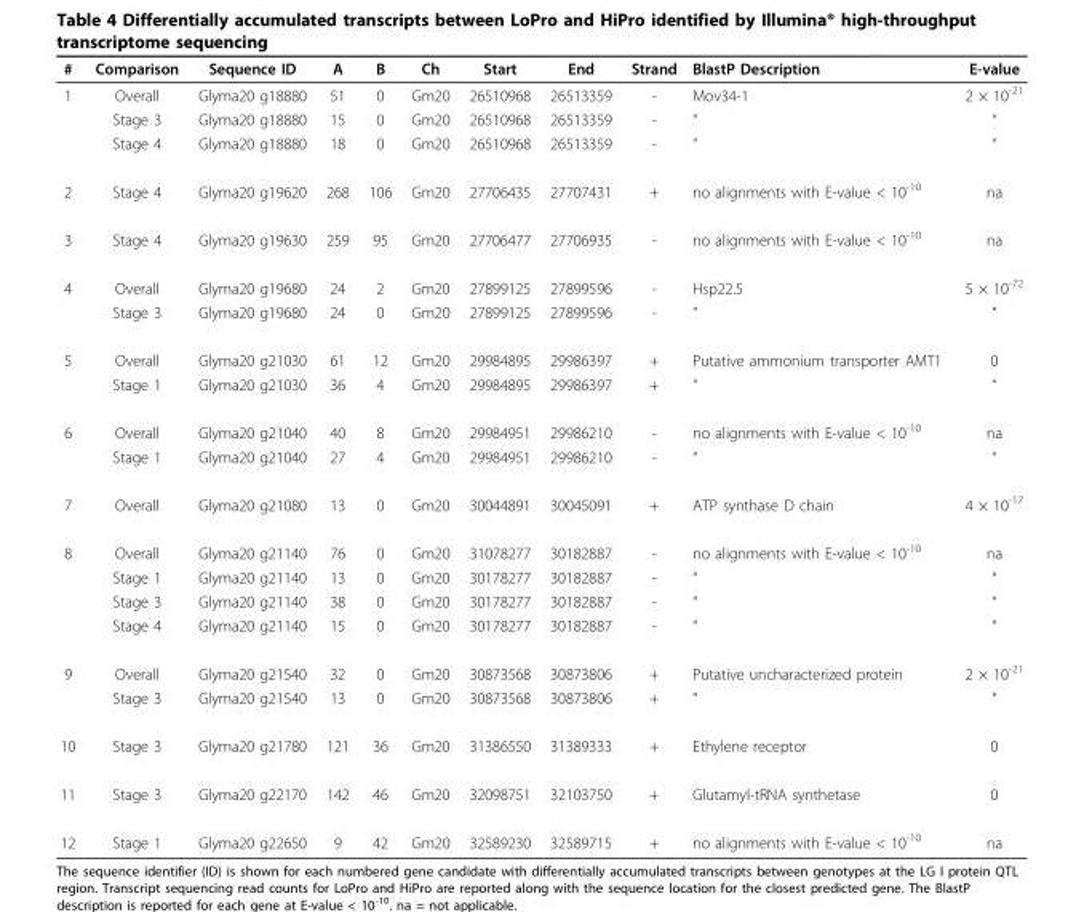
<table><thead><tr><td>#</td><td>Comparison</td><td>Sequence ID</td><td>A</td><td>B</td><td>Ch</td><td>Start</td><td>End</td><td>Strand</td><td>BlastP Description</td><td>E-value</td></tr></thead><tbody><tr><td rowspan="3">1</td><td>Overall</td><td>Glyma20 g18880</td><td>51</td><td>0</td><td>Gm20</td><td>26510968</td><td>26513359</td><td>-</td><td>Mov34-1</td><td>2 × 10<sup>-21</sup></td></tr><tr><td>Stage 3</td><td>Glyma20 g18880</td><td>15</td><td>0</td><td>Gm20</td><td>26510968</td><td>26513359</td><td>-</td><td>“</td><td>“</td></tr><tr><td>Stage 4</td><td>Glyma20 g18880</td><td>18</td><td>0</td><td>Gm20</td><td>26510968</td><td>26513359</td><td>-</td><td>“</td><td>“</td></tr><tr><td>2</td><td>Stage 4</td><td>Glyma20 g19620</td><td>268</td><td>106</td><td>Gm20</td><td>27706435</td><td>27707431</td><td>+</td><td>no alignments with E-value &lt; 10<sup>-10</sup></td><td>na</td></tr><tr><td>3</td><td>Stage 4</td><td>Glyma20 g19630</td><td>259</td><td>95</td><td>Gm20</td><td>27706477</td><td>27706935</td><td>-</td><td>no alignments with E-value &lt; 10<sup>-10</sup></td><td>na</td></tr><tr><td rowspan="2">4</td><td>Overall</td><td>Glyma20 g19680</td><td>24</td><td>2</td><td>Gm20</td><td>27899125</td><td>27899596</td><td>-</td><td>Hsp22.5</td><td>5 × 10<sup>-72</sup></td></tr><tr><td>Stage 3</td><td>Glyma20 g19680</td><td>24</td><td>0</td><td>Gm20</td><td>27899125</td><td>27899596</td><td>-</td><td>“</td><td>“</td></tr><tr><td rowspan="2">5</td><td>Overall</td><td>Glyma20 g21030</td><td>61</td><td>12</td><td>Gm20</td><td>29984895</td><td>29986397</td><td>+</td><td>Putative ammonium transporter AMT1</td><td>0</td></tr><tr><td>Stage 1</td><td>Glyma20 g21030</td><td>36</td><td>4</td><td>Gm20</td><td>29984895</td><td>29986397</td><td>+</td><td>“</td><td>“</td></tr><tr><td rowspan="2">6</td><td>Overall</td><td>Glyma20 g21040</td><td>40</td><td>8</td><td>Gm20</td><td>29984951</td><td>29986210</td><td>-</td><td>no alignments with E-value &lt; 10<sup>-10</sup></td><td>na</td></tr><tr><td>Stage 1</td><td>Glyma20 g21040</td><td>27</td><td>4</td><td>Gm20</td><td>29984951</td><td>29986210</td><td>-</td><td>“</td><td>“</td></tr><tr><td>7</td><td>Overall</td><td>Glyma20 g21080</td><td>13</td><td>0</td><td>Gm20</td><td>30044891</td><td>30045091</td><td>+</td><td>ATP synthase D chain</td><td>4 × 10<sup>-17</sup></td></tr><tr><td rowspan="4">8</td><td>Overall</td><td>Glyma20 g21140</td><td>76</td><td>0</td><td>Gm20</td><td>31078277</td><td>30182887</td><td>-</td><td>no alignments with E-value &lt; 10<sup>-10</sup></td><td>na</td></tr><tr><td>Stage 1</td><td>Glyma20 g21140</td><td>13</td><td>0</td><td>Gm20</td><td>30178277</td><td>30182887</td><td>-</td><td>“</td><td>“</td></tr><tr><td>Stage 3</td><td>Glyma20 g21140</td><td>38</td><td>0</td><td>Gm20</td><td>30178277</td><td>30182887</td><td>-</td><td>“</td><td>“</td></tr><tr><td>Stage 4</td><td>Glyma20 g21140</td><td>15</td><td>0</td><td>Gm20</td><td>30178277</td><td>30182887</td><td>-</td><td>“</td><td>“</td></tr><tr><td rowspan="2">9</td><td>Overall</td><td>Glyma20 g21540</td><td>32</td><td>0</td><td>Gm20</td><td>30873568</td><td>30873806</td><td>+</td><td>Putative uncharacterized protein</td><td>2 × 10<sup>-21</sup></td></tr><tr><td>Stage 3</td><td>Glyma20 g21540</td><td>13</td><td>0</td><td>Gm20</td><td>30873568</td><td>30873806</td><td>+</td><td>“</td><td>“</td></tr><tr><td>10</td><td>Stage 3</td><td>Glyma20 g21780</td><td>121</td><td>36</td><td>Gm20</td><td>31386550</td><td>31389333</td><td>+</td><td>Ethylene receptor</td><td>0</td></tr><tr><td>11</td><td>Stage 3</td><td>Glyma20 g22170</td><td>142</td><td>46</td><td>Gm20</td><td>32098751</td><td>32103750</td><td>+</td><td>Glutamyl-tRNA synthetase</td><td>0</td></tr><tr><td>12</td><td>Stage 1</td><td>Glyma20 g22650</td><td>9</td><td>42</td><td>Gm20</td><td>32589230</td><td>32589715</td><td>+</td><td>no alignments with E-value &lt; 10<sup>-10</sup></td><td>na</td></tr></tbody></table>